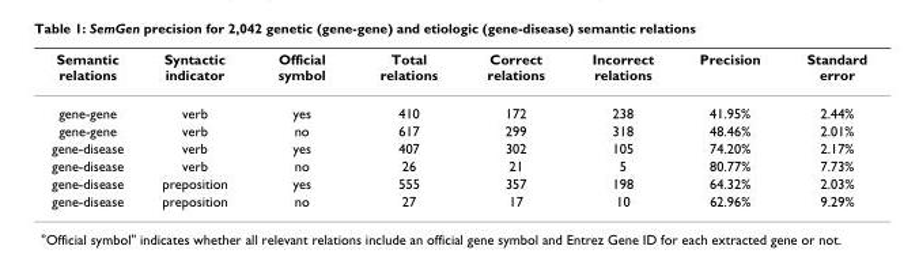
<table><thead><tr><td>Semantic relations</td><td>Syntactic indicator</td><td>Official symbol</td><td>Total relations</td><td>Correct relations</td><td>Incorrect relations</td><td>Precision</td><td>Standard error</td></tr></thead><tbody><tr><td>gene-gene</td><td>verb</td><td>yes</td><td>410</td><td>172</td><td>238</td><td>41.95%</td><td>2.44%</td></tr><tr><td>gene-gene</td><td>verb</td><td>no</td><td>617</td><td>299</td><td>318</td><td>48.46%</td><td>2.01%</td></tr><tr><td>gene-disease</td><td>verb</td><td>yes</td><td>407</td><td>302</td><td>105</td><td>74.20%</td><td>2.17%</td></tr><tr><td>gene-disease</td><td>verb</td><td>no</td><td>26</td><td>21</td><td>5</td><td>80.77%</td><td>7.73%</td></tr><tr><td>gene-disease</td><td>preposition</td><td>yes</td><td>555</td><td>357</td><td>198</td><td>64.32%</td><td>2.03%</td></tr><tr><td>gene-disease</td><td>preposition</td><td>no</td><td>27</td><td>17</td><td>10</td><td>62.96%</td><td>9.29%</td></tr></tbody></table>